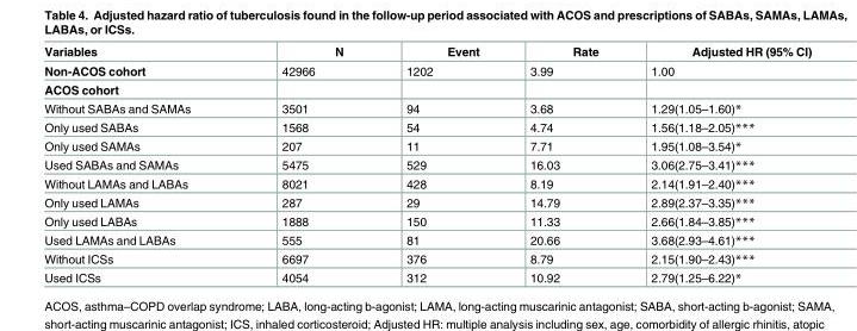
<table><thead><tr><td>Variables</td><td>N</td><td>Event</td><td>Rate</td><td>Adjusted HR (95% CI)</td></tr></thead><tbody><tr><td>Non-ACOS cohort</td><td>42966</td><td>1202</td><td>3.99</td><td>1.00</td></tr><tr><td colspan="5">ACOS cohort</td></tr><tr><td>Without SABAs and SAMAs</td><td>3501</td><td>94</td><td>3.68</td><td>1.29(1.05–1.60)*</td></tr><tr><td>Only used SABAs</td><td>1568</td><td>54</td><td>4.74</td><td>1.56(1.18–2.05)***</td></tr><tr><td>Only used SAMAs</td><td>207</td><td>11</td><td>7.71</td><td>1.95(1.08–3.54)*</td></tr><tr><td>Used SABAs and SAMAs</td><td>5475</td><td>529</td><td>16.03</td><td>3.06(2.75–3.41)***</td></tr><tr><td>Without LAMAs and LABAs</td><td>8021</td><td>428</td><td>8.19</td><td>2.14(1.91–2.40)***</td></tr><tr><td>Only used LAMAs</td><td>287</td><td>29</td><td>14.79</td><td>2.89(2.37–3.35)***</td></tr><tr><td>Only used LABAs</td><td>1888</td><td>150</td><td>11.33</td><td>2.66(1.84–3.85)***</td></tr><tr><td>Used LAMAs and LABAs</td><td>555</td><td>81</td><td>20.66</td><td>3.68(2.93–4.61)***</td></tr><tr><td>Without ICSs</td><td>6697</td><td>376</td><td>8.79</td><td>2.15(1.90–2.43)***</td></tr><tr><td>Used ICSs</td><td>4054</td><td>312</td><td>10.92</td><td>2.79(1.25–6.22)*</td></tr></tbody></table>